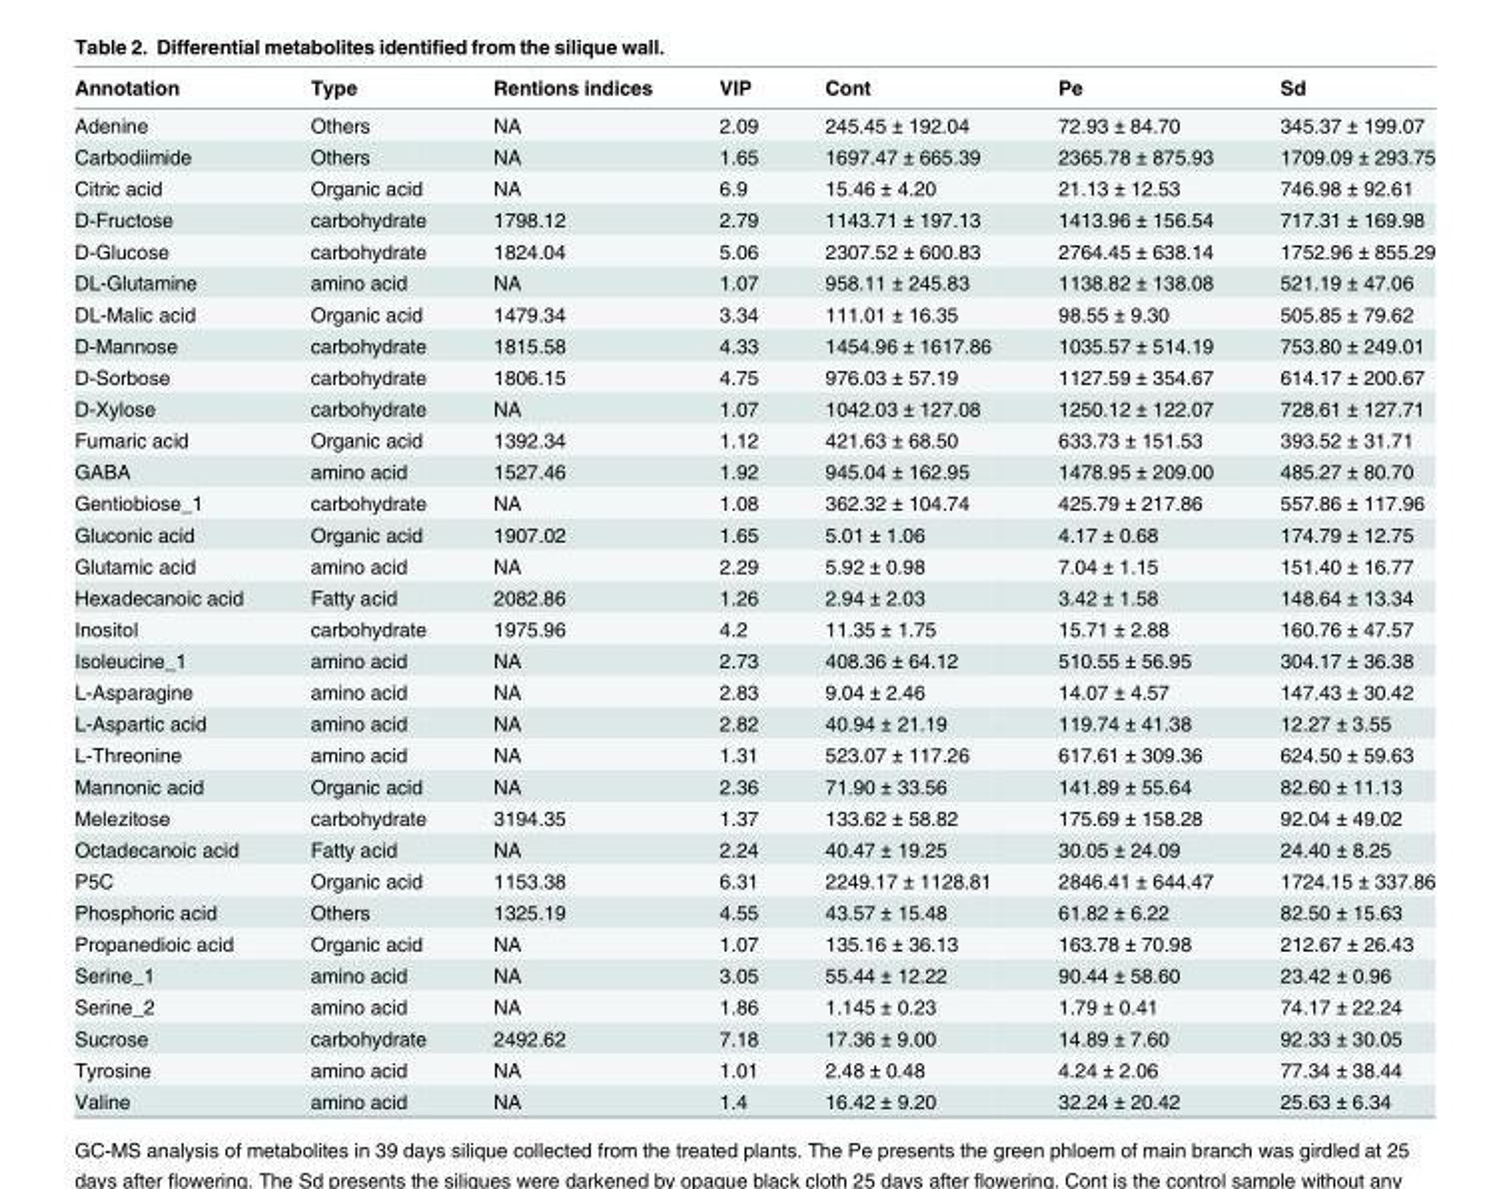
<table><thead><tr><td>Annotation</td><td>Type</td><td>Rentions indices</td><td>VIP</td><td>Cont</td><td>Pe</td><td>Sd</td></tr></thead><tbody><tr><td>Adenine</td><td>Others</td><td>NA</td><td>2.09</td><td>245.45 ± 192.04</td><td>72.93 ± 84.70</td><td>345.37 ± 199.07</td></tr><tr><td>Carbodiimide</td><td>Others</td><td>NA</td><td>1.65</td><td>1697.47 ± 665.39</td><td>2365.78 ± 875.93</td><td>1709.09 ± 293.75</td></tr><tr><td>Citric acid</td><td>Organic acid</td><td>NA</td><td>6.9</td><td>15.46 ± 4.20</td><td>21.13 ± 12.53</td><td>746.98 ± 92.61</td></tr><tr><td>D-Fructose</td><td>carbohydrate</td><td>1798.12</td><td>2.79</td><td>1143.71 ± 197.13</td><td>1413.96 ± 156.54</td><td>717.31 ± 169.98</td></tr><tr><td>D-Glucose</td><td>carbohydrate</td><td>1824.04</td><td>5.06</td><td>2307.52 ± 600.83</td><td>2764.45 ± 638.14</td><td>1752.96 ± 855.29</td></tr><tr><td>DL-Glutamine</td><td>amino acid</td><td>NA</td><td>1.07</td><td>958.11 ± 245.83</td><td>1138.82 ± 138.08</td><td>521.19 ± 47.06</td></tr><tr><td>DL-Malic acid</td><td>Organic acid</td><td>1479.34</td><td>3.34</td><td>111.01 ± 16.35</td><td>98.55 ± 9.30</td><td>505.85 ± 79.62</td></tr><tr><td>D-Mannose</td><td>carbohydrate</td><td>1815.58</td><td>4.33</td><td>1454.96 ± 1617.86</td><td>1035.57 ± 514.19</td><td>753.80 ± 249.01</td></tr><tr><td>D-Sorbose</td><td>carbohydrate</td><td>1806.15</td><td>4.75</td><td>976.03 ± 57.19</td><td>1127.59 ± 354.67</td><td>614.17 ± 200.67</td></tr><tr><td>D-Xylose</td><td>carbohydrate</td><td>NA</td><td>1.07</td><td>1042.03 ± 127.08</td><td>1250.12 ± 122.07</td><td>728.61 ± 127.71</td></tr><tr><td>Fumaric acid</td><td>Organic acid</td><td>1392.34</td><td>1.12</td><td>421.63 ± 68.50</td><td>633.73 ± 151.53</td><td>393.52 ± 31.71</td></tr><tr><td>GABA</td><td>amino acid</td><td>1527.46</td><td>1.92</td><td>945.04 ± 162.95</td><td>1478.95 ± 209.00</td><td>485.27 ± 80.70</td></tr><tr><td>Gentiobiose_1</td><td>carbohydrate</td><td>NA</td><td>1.08</td><td>362.32 ± 104.74</td><td>425.79 ± 217.86</td><td>557.86 ± 117.96</td></tr><tr><td>Gluconic acid</td><td>Organic acid</td><td>1907.02</td><td>1.65</td><td>5.01 ± 1.06</td><td>4.17 ± 0.68</td><td>174.79 ± 12.75</td></tr><tr><td>Glutamic acid</td><td>amino acid</td><td>NA</td><td>2.29</td><td>5.92 ± 0.98</td><td>7.04 ± 1.15</td><td>151.40 ± 16.77</td></tr><tr><td>Hexadecanoic acid</td><td>Fatty acid</td><td>2082.86</td><td>1.26</td><td>2.94 ± 2.03</td><td>3.42 ± 1.58</td><td>148.64 ± 13.34</td></tr><tr><td>Inositol</td><td>carbohydrate</td><td>1975.96</td><td>4.2</td><td>11.35 ± 1.75</td><td>15.71 ± 2.88</td><td>160.76 ± 47.57</td></tr><tr><td>Isoleucine_1</td><td>amino acid</td><td>NA</td><td>2.73</td><td>408.36 ± 64.12</td><td>510.55 ± 56.95</td><td>304.17 ± 36.38</td></tr><tr><td>L-Asparagine</td><td>amino acid</td><td>NA</td><td>2.83</td><td>9.04 ± 2.46</td><td>14.07 ± 4.57</td><td>147.43 ± 30.42</td></tr><tr><td>L-Aspartic acid</td><td>amino acid</td><td>NA</td><td>2.82</td><td>40.94 ± 21.19</td><td>119.74 ± 41.38</td><td>12.27 ± 3.55</td></tr><tr><td>L-Threonine</td><td>amino acid</td><td>NA</td><td>1.31</td><td>523.07 ± 117.26</td><td>617.61 ± 309.36</td><td>624.50 ± 59.63</td></tr><tr><td>Mannonic acid</td><td>Organic acid</td><td>NA</td><td>2.36</td><td>71.90 ± 33.56</td><td>141.89 ± 55.64</td><td>82.60 ± 11.13</td></tr><tr><td>Melezitose</td><td>carbohydrate</td><td>3194.35</td><td>1.37</td><td>133.62 ± 58.82</td><td>175.69 ± 158.28</td><td>92.04 ± 49.02</td></tr><tr><td>Octadecanoic acid</td><td>Fatty acid</td><td>NA</td><td>2.24</td><td>40.47 ± 19.25</td><td>30.05 ± 24.09</td><td>24.40 ± 8.25</td></tr><tr><td>P5C</td><td>Organic acid</td><td>1153.38</td><td>6.31</td><td>2249.17 ± 1128.81</td><td>2846.41 ± 644.47</td><td>1724.15 ± 337.86</td></tr><tr><td>Phosphoric acid</td><td>Others</td><td>1325.19</td><td>4.55</td><td>43.57 ± 15.48</td><td>61.82 ± 6.22</td><td>82.50 ± 15.63</td></tr><tr><td>Propanedioic acid</td><td>Organic acid</td><td>NA</td><td>1.07</td><td>135.16 ± 36.13</td><td>163.78 ± 70.98</td><td>212.67 ± 26.43</td></tr><tr><td>Serine_1</td><td>amino acid</td><td>NA</td><td>3.05</td><td>55.44 ± 12.22</td><td>90.44 ± 58.60</td><td>23.42 ± 0.96</td></tr><tr><td>Serine_2</td><td>amino acid</td><td>NA</td><td>1.86</td><td>1.145 ± 0.23</td><td>1.79 ± 0.41</td><td>74.17 ± 22.24</td></tr><tr><td>Sucrose</td><td>carbohydrate</td><td>2492.62</td><td>7.18</td><td>17.36 ± 9.00</td><td>14.89 ± 7.60</td><td>92.33 ± 30.05</td></tr><tr><td>Tyrosine</td><td>amino acid</td><td>NA</td><td>1.01</td><td>2.48 ± 0.48</td><td>4.24 ± 2.06</td><td>77.34 ± 38.44</td></tr><tr><td>Valine</td><td>amino acid</td><td>NA</td><td>1.4</td><td>16.42 ± 9.20</td><td>32.24 ± 20.42</td><td>25.63 ± 6.34</td></tr></tbody></table>